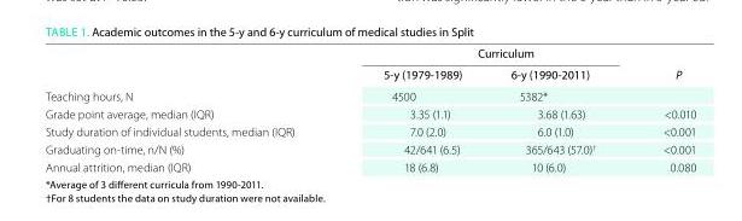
<table><thead><tr><td rowspan="2"></td><td colspan="2">Curriculum</td><td rowspan="2">P</td></tr><tr><td>5-y (1979-1989)</td><td>6-y (1990-2011)</td></tr></thead><tbody><tr><td>Teaching hours, N</td><td>4500</td><td>5382*</td><td></td></tr><tr><td>Grade point average, median (IQR)</td><td>3.35 (1.1)</td><td>3.68 (1.63)</td><td>&lt;0.010</td></tr><tr><td>Study duration of individual students, median (IQR)</td><td>7.0 (2.0)</td><td>6.0 (1.0)</td><td>&lt;0.001</td></tr><tr><td>Graduating on-time, n/N (%)</td><td>42/641 (6.5)</td><td>365/643 (57.0)<sup>†</sup></td><td>&lt;0.001</td></tr><tr><td>Annual attrition, median (IQR)</td><td>18 (6.8)</td><td>10 (6.0)</td><td>0.080</td></tr></tbody></table>